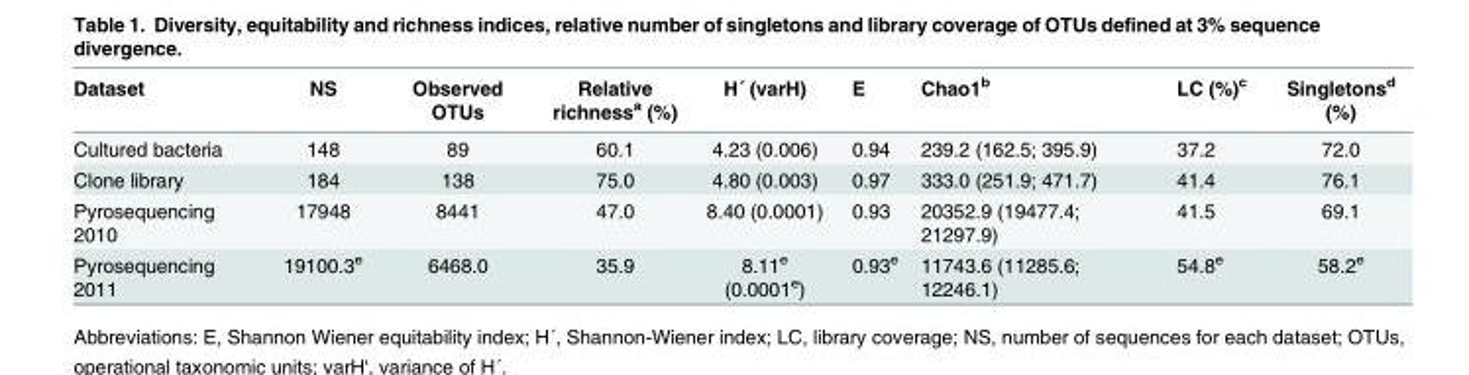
<table><thead><tr><td>Dataset</td><td>NS</td><td>Observed OTUs</td><td>Relative richness<sup>a</sup> (%)</td><td>H´ (varH)</td><td>E</td><td>Chao1<sup>b</sup></td><td>LC (%)<sup>c</sup></td><td>Singletons<sup>d</sup> (%)</td></tr></thead><tbody><tr><td>Cultured bacteria</td><td>148</td><td>89</td><td>60.1</td><td>4.23 (0.006)</td><td>0.94</td><td>239.2 (162.5; 395.9)</td><td>37.2</td><td>72.0</td></tr><tr><td>Clone library</td><td>184</td><td>138</td><td>75.0</td><td>4.80 (0.003)</td><td>0.97</td><td>333.0 (251.9; 471.7)</td><td>41.4</td><td>76.1</td></tr><tr><td>Pyrosequencing 2010</td><td>17948</td><td>8441</td><td>47.0</td><td>8.40 (0.0001)</td><td>0.93</td><td>20352.9 (19477.4; 21297.9)</td><td>41.5</td><td>69.1</td></tr><tr><td>Pyrosequencing 2011</td><td>19100.3<sup>e</sup></td><td>6468.0</td><td>35.9</td><td>8.11<sup>e</sup> (0.0001<sup>e</sup>)</td><td>0.93<sup>e</sup></td><td>11743.6 (11285.6; 12246.1)</td><td>54.8<sup>e</sup></td><td>58.2<sup>e</sup></td></tr></tbody></table>